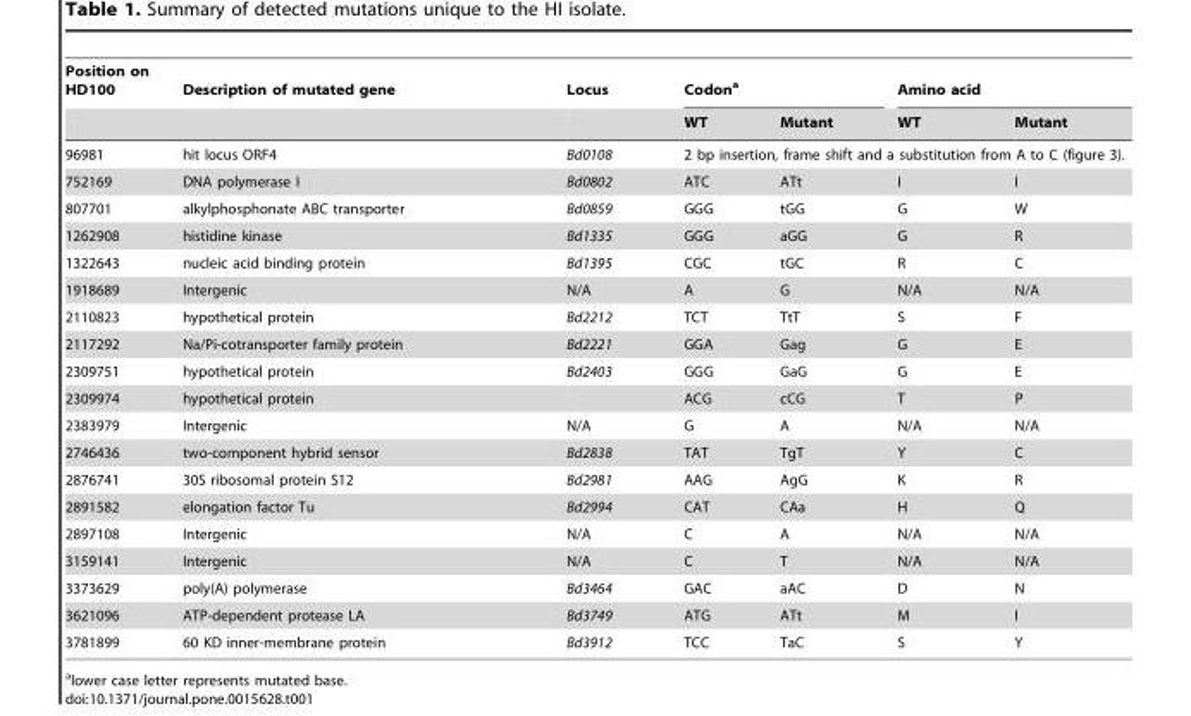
<table><thead><tr><td rowspan="2">Position on HD100</td><td rowspan="2">Description of mutated gene</td><td rowspan="2">Locus</td><td colspan="2">Codon<sup>a</sup></td><td colspan="2">Amino acid</td></tr><tr><td>WT</td><td>Mutant</td><td>WT</td><td>Mutant</td></tr></thead><tbody><tr><td>96981</td><td>hit locus ORF4</td><td>Bd0108</td><td colspan="4">2 bp insertion, frame shift and a substitution from A to C (figure 3).</td></tr><tr><td>752169</td><td>DNA polymerase I</td><td>Bd0802</td><td>ATC</td><td>ATt</td><td>I</td><td>I</td></tr><tr><td>807701</td><td>alkylphosphonate ABC transporter</td><td>Bd0859</td><td>GGG</td><td>tGG</td><td>G</td><td>W</td></tr><tr><td>1262908</td><td>histidine kinase</td><td>Bd1335</td><td>GGG</td><td>aGG</td><td>G</td><td>R</td></tr><tr><td>1322643</td><td>nucleic acid binding protein</td><td>Bd1395</td><td>CGC</td><td>tGC</td><td>R</td><td>C</td></tr><tr><td>1918689</td><td>Intergenic</td><td>N/A</td><td>A</td><td>G</td><td>N/A</td><td>N/A</td></tr><tr><td>2110823</td><td>hypothetical protein</td><td>Bd2212</td><td>TCT</td><td>TtT</td><td>S</td><td>F</td></tr><tr><td>2117292</td><td>Na/Pi-cotransporter family protein</td><td>Bd2221</td><td>GGA</td><td>Gag</td><td>G</td><td>E</td></tr><tr><td>2309751</td><td>hypothetical protein</td><td>Bd2403</td><td>GGG</td><td>GaG</td><td>G</td><td>E</td></tr><tr><td>2309974</td><td>hypothetical protein</td><td></td><td>ACG</td><td>cCG</td><td>T</td><td>P</td></tr><tr><td>2383979</td><td>Intergenic</td><td>N/A</td><td>G</td><td>A</td><td>N/A</td><td>N/A</td></tr><tr><td>2746436</td><td>two-component hybrid sensor</td><td>Bd2838</td><td>TAT</td><td>TgT</td><td>Y</td><td>C</td></tr><tr><td>2876741</td><td>30S ribosomal protein S12</td><td>Bd2981</td><td>AAG</td><td>AgG</td><td>K</td><td>R</td></tr><tr><td>2891582</td><td>elongation factor Tu</td><td>Bd2994</td><td>CAT</td><td>CAa</td><td>H</td><td>Q</td></tr><tr><td>2897108</td><td>Intergenic</td><td>N/A</td><td>C</td><td>A</td><td>N/A</td><td>N/A</td></tr><tr><td>3159141</td><td>Intergenic</td><td>N/A</td><td>C</td><td>T</td><td>N/A</td><td>N/A</td></tr><tr><td>3373629</td><td>poly(A) polymerase</td><td>Bd3464</td><td>GAC</td><td>aAC</td><td>D</td><td>N</td></tr><tr><td>3621096</td><td>ATP-dependent protease LA</td><td>Bd3749</td><td>ATG</td><td>ATt</td><td>M</td><td>I</td></tr><tr><td>3781899</td><td>60 KD inner-membrane protein</td><td>Bd3912</td><td>TCC</td><td>TaC</td><td>S</td><td>Y</td></tr></tbody></table>